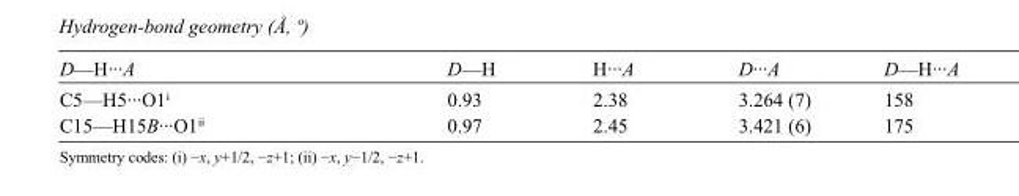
<table><tbody><tr><td>D—H···A</td><td>D—H</td><td>H···A</td><td>D···A</td><td>D—H···A</td></tr><tr><td>C5—H5···O1<sup>i</sup></td><td>0.93</td><td>2.38</td><td>3.264 (7)</td><td>158</td></tr><tr><td>C15—H15B···O1<sup>ii</sup></td><td>0.97</td><td>2.45</td><td>3.421 (6)</td><td>175</td></tr></tbody></table>